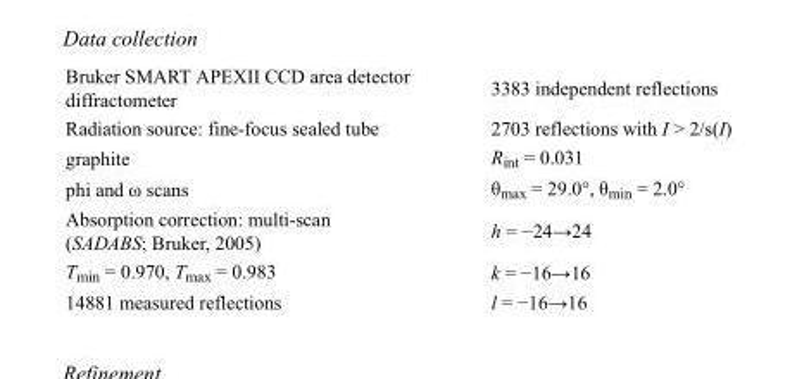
<table><tbody><tr><td>Bruker SMART APEXII CCD area detector diffractometer</td><td>3383 independent reflections</td></tr><tr><td>Radiation source: fine-focus sealed tube</td><td>2703 reflections with I &gt; 2/s(I)</td></tr><tr><td>graphite</td><td>R<sub>int</sub> = 0.031</td></tr><tr><td>phi and ω scans</td><td>θ<sub>max</sub> = 29.0°, θ<sub>min</sub> = 2.0°</td></tr><tr><td>Absorption correction: multi-scan (SADABS; Bruker, 2005)</td><td>h = −24→24</td></tr><tr><td>T<sub>min</sub> = 0.970, T<sub>max</sub> = 0.983</td><td>k = −16→16</td></tr><tr><td>14881 measured reflections</td><td>l = −16→16</td></tr></tbody></table>